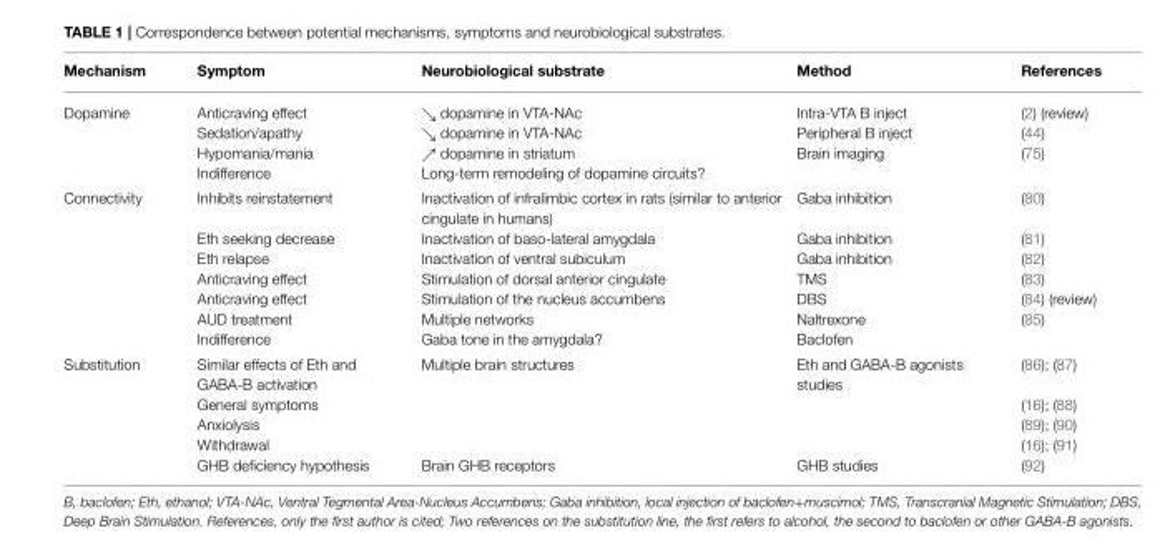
<table><thead><tr><td>Mechanism</td><td>Symptom</td><td>Neurobiological substrate</td><td>Method</td><td>References</td></tr></thead><tbody><tr><td>Dopamine</td><td>Anticraving effect Sedation/apathy Hypomania/mania Indifference</td><td>ց dopamine in VTA-NAc ց dopamine in VTA-NAc ր dopamine in striatum Long-term remodeling of dopamine circuits?</td><td>Intra-VTA B inject Peripheral B inject Brain imaging</td><td>(2) (review) (44) (75)</td></tr><tr><td>Connectivity</td><td>Inhibits reinstatement Eth seeking decrease Eth relapse Anticraving effect Anticraving effect AUD treatment Indifference</td><td>Inactivation of infralimbic cortex in rats (similar to anterior cingulate in humans) Inactivation of baso-lateral amygdala Inactivation of ventral subiculum Stimulation of dorsal anterior cingulate Stimulation of the nucleus accumbens Multiple networks Gaba tone in the amygdala?</td><td>Gaba inhibition Gaba inhibition Gaba inhibition TMS DBS Naltrexone Baclofen</td><td>(80) (81) (82) (83) (84) (review) (85)</td></tr><tr><td>Substitution</td><td>Similar effects of Eth and GABA-B activation General symptoms Anxiolysis Withdrawal GHB deficiency hypothesis</td><td>Multiple brain structures Brain GHB receptors</td><td>Eth and GABA-B agonists studies GHB studies</td><td>(86); (87) (16); (88) (89); (90) (16); (91) (92)</td></tr></tbody></table>